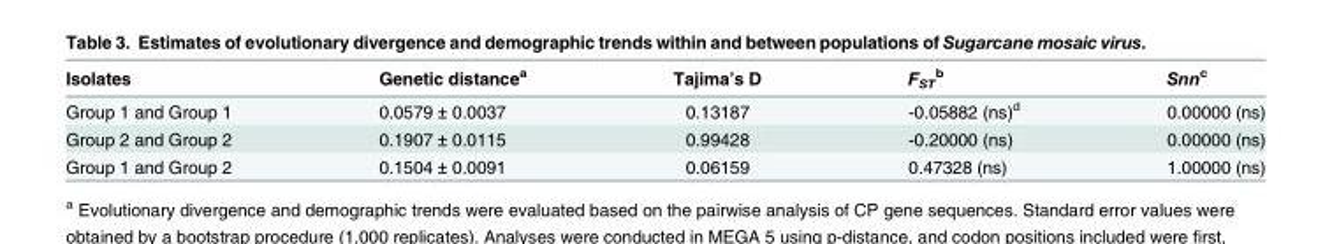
<table><thead><tr><td>Isolates</td><td>Genetic distance<sup>a</sup></td><td>Tajima’s D</td><td>F<sub>ST</sub> <sup>b</sup></td><td>Snn<sup>c</sup></td></tr></thead><tbody><tr><td>Group 1 and Group 1</td><td>0.0579 ± 0.0037</td><td>0.13187</td><td>-0.05882 (ns)<sup>d</sup></td><td>0.00000 (ns)</td></tr><tr><td>Group 2 and Group 2</td><td>0.1907 ± 0.0115</td><td>0.99428</td><td>-0.20000 (ns)</td><td>0.00000 (ns)</td></tr><tr><td>Group 1 and Group 2</td><td>0.1504 ± 0.0091</td><td>0.06159</td><td>0.47328 (ns)</td><td>1.00000 (ns)</td></tr></tbody></table>